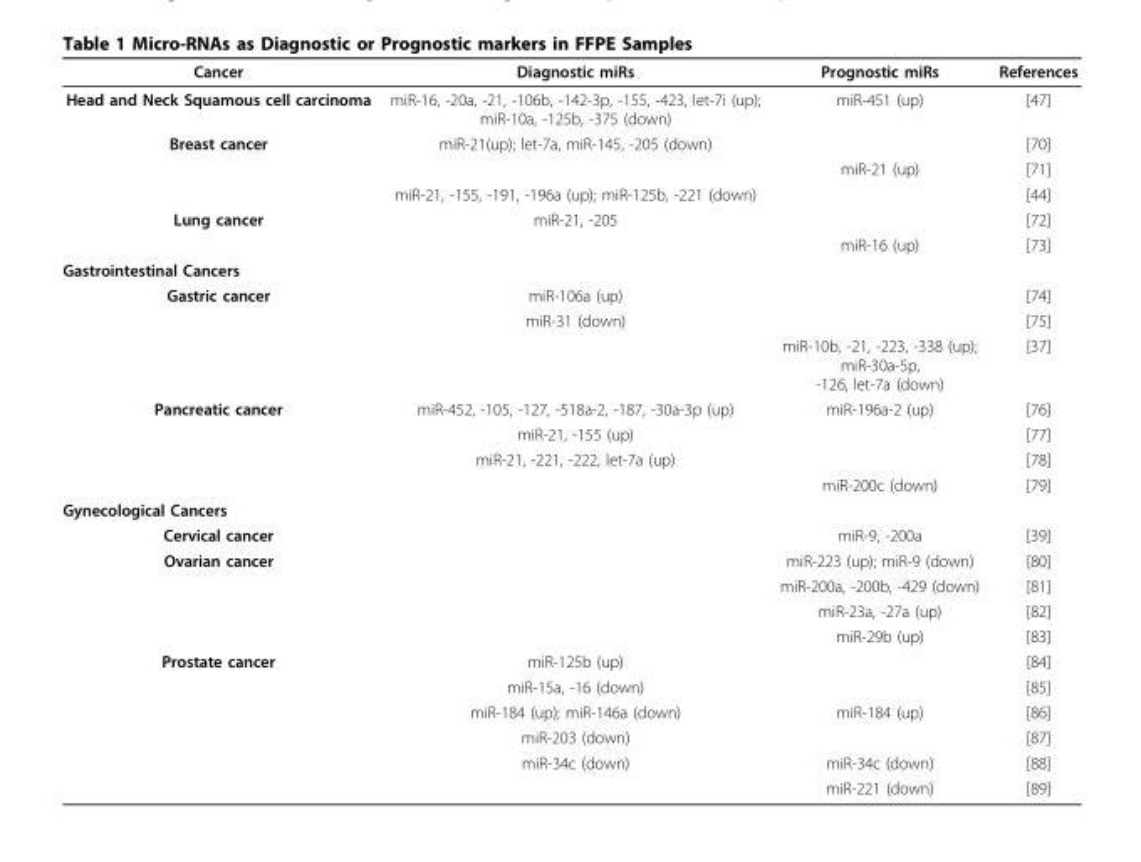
<table><thead><tr><td>Cancer</td><td>Diagnostic miRs</td><td>Prognostic miRs</td><td>References</td></tr></thead><tbody><tr><td>Head and Neck Squamous cell carcinoma</td><td>miR-16, -20a, -21, -106b, -142-3p, -155, -423, let-7i (up); miR-10a, -125b, -375 (down)</td><td>miR-451 (up)</td><td>[47]</td></tr><tr><td rowspan="3">Breast cancer</td><td>miR-21(up); let-7a, miR-145, -205 (down)</td><td></td><td>[70]</td></tr><tr><td></td><td>miR-21 (up)</td><td>[71]</td></tr><tr><td>miR-21, -155, -191, -196a (up); miR-125b, -221 (down)</td><td></td><td>[44]</td></tr><tr><td rowspan="2">Lung cancer</td><td>miR-21, -205</td><td></td><td>[72]</td></tr><tr><td></td><td>miR-16 (up)</td><td>[73]</td></tr><tr><td colspan="4">Gastrointestinal Cancers</td></tr><tr><td rowspan="3">Gastric cancer</td><td>miR-106a (up)</td><td></td><td>[74]</td></tr><tr><td>miR-31 (down)</td><td></td><td>[75]</td></tr><tr><td></td><td>miR-10b, -21, -223, -338 (up); miR-30a-5p, -126, let-7a (down)</td><td>[37]</td></tr><tr><td rowspan="4">Pancreatic cancer</td><td>miR-452, -105, -127, -518a-2, -187, -30a-3p (up)</td><td>miR-196a-2 (up)</td><td>[76]</td></tr><tr><td>miR-21, -155 (up)</td><td></td><td>[77]</td></tr><tr><td>miR-21, -221, -222, let-7a (up)</td><td></td><td>[78]</td></tr><tr><td></td><td>miR-200c (down)</td><td>[79]</td></tr><tr><td colspan="4">Gynecological Cancers</td></tr><tr><td>Cervical cancer</td><td></td><td>miR-9, -200a</td><td>[39]</td></tr><tr><td rowspan="4">Ovarian cancer</td><td></td><td>miR-223 (up); miR-9 (down)</td><td>[80]</td></tr><tr><td></td><td>miR-200a, -200b, -429 (down)</td><td>[81]</td></tr><tr><td></td><td>miR-23a, -27a (up)</td><td>[82]</td></tr><tr><td></td><td>miR-29b (up)</td><td>[83]</td></tr><tr><td rowspan="6">Prostate cancer</td><td>miR-125b (up)</td><td></td><td>[84]</td></tr><tr><td>miR-15a, -16 (down)</td><td></td><td>[85]</td></tr><tr><td>miR-184 (up); miR-146a (down)</td><td>miR-184 (up)</td><td>[86]</td></tr><tr><td>miR-203 (down)</td><td></td><td>[87]</td></tr><tr><td>miR-34c (down)</td><td>miR-34c (down)</td><td>[88]</td></tr><tr><td></td><td>miR-221 (down)</td><td>[89]</td></tr></tbody></table>